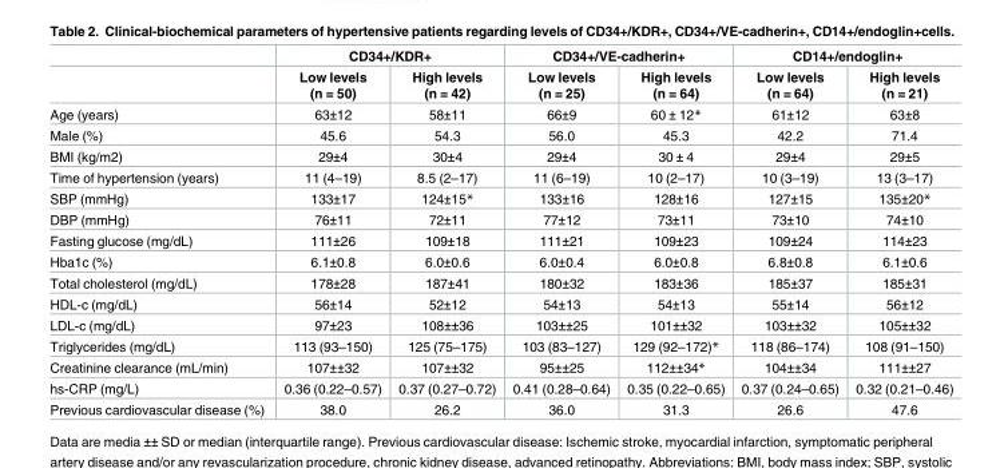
<table><thead><tr><td rowspan="2"></td><td colspan="2">CD34+/KDR+</td><td colspan="2">CD34+/VE-cadherin+</td><td colspan="2">CD14+/endoglin+</td></tr><tr><td>Low levels (n = 50)</td><td>High levels (n = 42)</td><td>Low levels (n = 25)</td><td>High levels (n = 64)</td><td>Low levels (n = 64)</td><td>High levels (n = 21)</td></tr></thead><tbody><tr><td>Age (years)</td><td>63±12</td><td>58±11</td><td>66±9</td><td>60 ± 12*</td><td>61±12</td><td>63±8</td></tr><tr><td>Male (%)</td><td>45.6</td><td>54.3</td><td>56.0</td><td>45.3</td><td>42.2</td><td>71.4</td></tr><tr><td>BMI (kg/m2)</td><td>29±4</td><td>30±4</td><td>29±4</td><td>30 ± 4</td><td>29±4</td><td>29±5</td></tr><tr><td>Time of hypertension (years)</td><td>11 (4–19)</td><td>8.5 (2–17)</td><td>11 (6–19)</td><td>10 (2–17)</td><td>10 (3–19)</td><td>13 (3–17)</td></tr><tr><td>SBP (mmHg)</td><td>133±17</td><td>124±15*</td><td>133±16</td><td>128±16</td><td>127±15</td><td>135±20*</td></tr><tr><td>DBP (mmHg)</td><td>76±11</td><td>72±11</td><td>77±12</td><td>73±11</td><td>73±10</td><td>74±10</td></tr><tr><td>Fasting glucose (mg/dL)</td><td>111±26</td><td>109±18</td><td>111±21</td><td>109±23</td><td>109±24</td><td>114±23</td></tr><tr><td>Hba1c (%)</td><td>6.1±0.8</td><td>6.0±0.6</td><td>6.0±0.4</td><td>6.0±0.8</td><td>6.8±0.8</td><td>6.1±0.6</td></tr><tr><td>Total cholesterol (mg/dL)</td><td>178±28</td><td>187±41</td><td>180±32</td><td>183±36</td><td>185±37</td><td>185±31</td></tr><tr><td>HDL-c (mg/dL)</td><td>56±14</td><td>52±12</td><td>54±13</td><td>54±13</td><td>55±14</td><td>56±12</td></tr><tr><td>LDL-c (mg/dL)</td><td>97±23</td><td>108±±36</td><td>103±±25</td><td>101±±32</td><td>103±±32</td><td>105±±32</td></tr><tr><td>Triglycerides (mg/dL)</td><td>113 (93–150)</td><td>125 (75–175)</td><td>103 (83–127)</td><td>129 (92–172)*</td><td>118 (86–174)</td><td>108 (91–150)</td></tr><tr><td>Creatinine clearance (mL/min)</td><td>107±±32</td><td>107±±32</td><td>95±±25</td><td>112±±34*</td><td>104±±34</td><td>111±±27</td></tr><tr><td>hs-CRP (mg/L)</td><td>0.36 (0.22–0.57)</td><td>0.37 (0.27–0.72)</td><td>0.41 (0.28–0.64)</td><td>0.35 (0.22–0.65)</td><td>0.37 (0.24–0.65)</td><td>0.32 (0.21–0.46)</td></tr><tr><td>Previous cardiovascular disease (%)</td><td>38.0</td><td>26.2</td><td>36.0</td><td>31.3</td><td>26.6</td><td>47.6</td></tr></tbody></table>